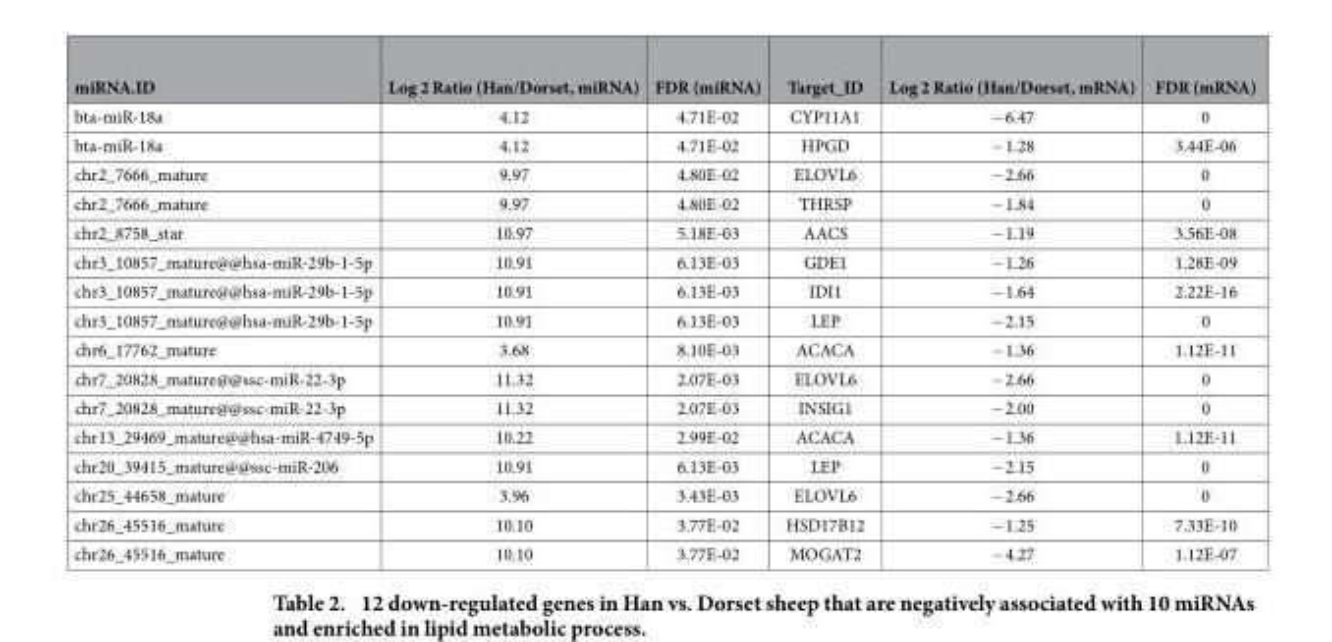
<table><thead><tr><td>miRNA.ID</td><td>Log 2 Ratio (Han/Dorset, miRNA)</td><td>FDR (miRNA)</td><td>Target_ID</td><td>Log 2 Ratio (Han/Dorset, mRNA)</td><td>FDR (mRNA)</td></tr></thead><tbody><tr><td>bta-miR-18a</td><td>4.12</td><td>4.71E-02</td><td>CYP11A1</td><td>− 6.47</td><td>0</td></tr><tr><td>bta-miR-18a</td><td>4.12</td><td>4.71E-02</td><td>HPGD</td><td>− 1.28</td><td>3.44E-06</td></tr><tr><td>chr2_7666_mature</td><td>9.97</td><td>4.80E-02</td><td>ELOVL6</td><td>− 2.66</td><td>0</td></tr><tr><td>chr2_7666_mature</td><td>9.97</td><td>4.80E-02</td><td>THRSP</td><td>− 1.84</td><td>0</td></tr><tr><td>chr2_8758_star</td><td>10.97</td><td>5.18E-03</td><td>AACS</td><td>− 1.19</td><td>3.56E-08</td></tr><tr><td>chr3_10857_mature@@hsa-miR-29b-1-5p</td><td>10.91</td><td>6.13E-03</td><td>GDE1</td><td>− 1.26</td><td>1.28E-09</td></tr><tr><td>chr3_10857_mature@@hsa-miR-29b-1-5p</td><td>10.91</td><td>6.13E-03</td><td>IDI1</td><td>− 1.64</td><td>2.22E-16</td></tr><tr><td>chr3_10857_mature@@hsa-miR-29b-1-5p</td><td>10.91</td><td>6.13E-03</td><td>LEP</td><td>− 2.15</td><td>0</td></tr><tr><td>chr6_17762_mature</td><td>3.68</td><td>8.10E-03</td><td>ACACA</td><td>− 1.36</td><td>1.12E-11</td></tr><tr><td>chr7_20828_mature@@ssc-miR-22-3p</td><td>11.32</td><td>2.07E-03</td><td>ELOVL6</td><td>− 2.66</td><td>0</td></tr><tr><td>chr7_20828_mature@@ssc-miR-22-3p</td><td>11.32</td><td>2.07E-03</td><td>INSIG1</td><td>− 2.00</td><td>0</td></tr><tr><td>chr13_29469_mature@@hsa-miR-4749-5p</td><td>10.22</td><td>2.99E-02</td><td>ACACA</td><td>− 1.36</td><td>1.12E-11</td></tr><tr><td>chr20_39415_mature@@ssc-miR-206</td><td>10.91</td><td>6.13E-03</td><td>LEP</td><td>− 2.15</td><td>0</td></tr><tr><td>chr25_44658_mature</td><td>3.96</td><td>3.43E-03</td><td>ELOVL6</td><td>− 2.66</td><td>0</td></tr><tr><td>chr26_45516_mature</td><td>10.10</td><td>3.77E-02</td><td>HSD17B12</td><td>− 1.25</td><td>7.33E-10</td></tr><tr><td>chr26_45516_mature</td><td>10.10</td><td>3.77E-02</td><td>MOGAT2</td><td>− 4.27</td><td>1.12E-07</td></tr></tbody></table>